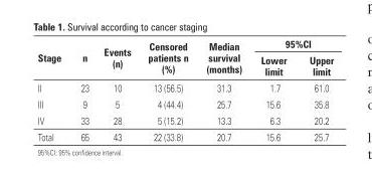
<table><thead><tr><td rowspan="2">Stage</td><td rowspan="2">n</td><td rowspan="2">Events (n)</td><td rowspan="2">Censored patients n (%)</td><td rowspan="2">Median survival (months)</td><td colspan="2">95%CI</td></tr><tr><td>Lower limit</td><td>Upper limit</td></tr></thead><tbody><tr><td>II</td><td>23</td><td>10</td><td>13 (56.5)</td><td>31.3</td><td>1.7</td><td>61.0</td></tr><tr><td>III</td><td>9</td><td>5</td><td>4 (44.4)</td><td>25.7</td><td>15.6</td><td>35.8</td></tr><tr><td>IV</td><td>33</td><td>28</td><td>5 (15.2)</td><td>13.3</td><td>6.3</td><td>20.2</td></tr><tr><td>Total</td><td>65</td><td>43</td><td>22 (33.8)</td><td>20.7</td><td>15.6</td><td>25.7</td></tr></tbody></table>